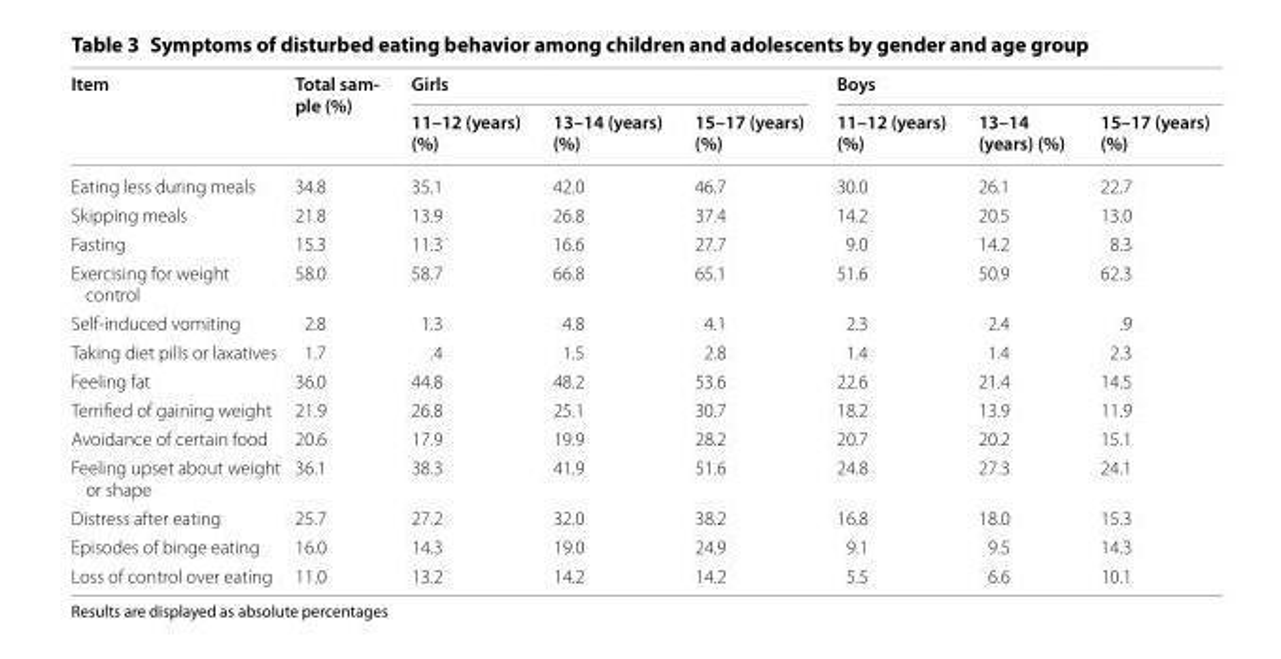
<table><thead><tr><td rowspan="2">Item</td><td rowspan="2">Total sam- ple (%)</td><td colspan="3">Girls</td><td colspan="3">Boys</td></tr><tr><td>11–12 (years) (%)</td><td>13–14 (years) (%)</td><td>15–17 (years) (%)</td><td>11–12 (years) (%)</td><td>13–14 (years) (%)</td><td>15–17 (years) (%)</td></tr></thead><tbody><tr><td>Eating less during meals</td><td>34.8</td><td>35.1</td><td>42.0</td><td>46.7</td><td>30.0</td><td>26.1</td><td>22.7</td></tr><tr><td>Skipping meals</td><td>21.8</td><td>13.9</td><td>26.8</td><td>37.4</td><td>14.2</td><td>20.5</td><td>13.0</td></tr><tr><td>Fasting</td><td>15.3</td><td>11.3</td><td>16.6</td><td>27.7</td><td>9.0</td><td>14.2</td><td>8.3</td></tr><tr><td>Exercising for weight control</td><td>58.0</td><td>58.7</td><td>66.8</td><td>65.1</td><td>51.6</td><td>50.9</td><td>62.3</td></tr><tr><td>Self-induced vomiting</td><td>2.8</td><td>1.3</td><td>4.8</td><td>4.1</td><td>2.3</td><td>2.4</td><td>.9</td></tr><tr><td>Taking diet pills or laxatives</td><td>1.7</td><td>.4</td><td>1.5</td><td>2.8</td><td>1.4</td><td>1.4</td><td>2.3</td></tr><tr><td>Feeling fat</td><td>36.0</td><td>44.8</td><td>48.2</td><td>53.6</td><td>22.6</td><td>21.4</td><td>14.5</td></tr><tr><td>Terrified of gaining weight</td><td>21.9</td><td>26.8</td><td>25.1</td><td>30.7</td><td>18.2</td><td>13.9</td><td>11.9</td></tr><tr><td>Avoidance of certain food</td><td>20.6</td><td>17.9</td><td>19.9</td><td>28.2</td><td>20.7</td><td>20.2</td><td>15.1</td></tr><tr><td>Feeling upset about weight or shape</td><td>36.1</td><td>38.3</td><td>41.9</td><td>51.6</td><td>24.8</td><td>27.3</td><td>24.1</td></tr><tr><td>Distress after eating</td><td>25.7</td><td>27.2</td><td>32.0</td><td>38.2</td><td>16.8</td><td>18.0</td><td>15.3</td></tr><tr><td>Episodes of binge eating</td><td>16.0</td><td>14.3</td><td>19.0</td><td>24.9</td><td>9.1</td><td>9.5</td><td>14.3</td></tr><tr><td>Loss of control over eating</td><td>11.0</td><td>13.2</td><td>14.2</td><td>14.2</td><td>5.5</td><td>6.6</td><td>10.1</td></tr></tbody></table>